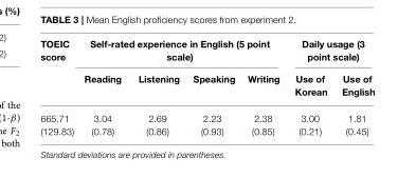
<table><thead><tr><td rowspan="2">TOEIC score</td><td colspan="4">Self-rated experience in English (5 point scale)</td><td colspan="2">Daily usage (3 point scale)</td></tr><tr><td>Reading</td><td>Listening</td><td>Speaking</td><td>Writing</td><td>Use of Korean</td><td>Use of English</td></tr></thead><tbody><tr><td>665.71 (129.83)</td><td>3.04 (0.78)</td><td>2.69 (0.86)</td><td>2.23 (0.93)</td><td>2.38 (0.85)</td><td>3.00 (0.21)</td><td>1.81 (0.45)</td></tr></tbody></table>